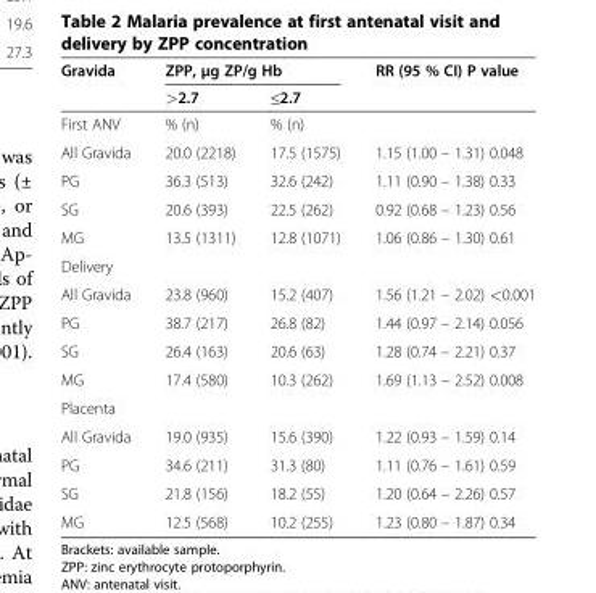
<table><thead><tr><td rowspan="2">Gravida</td><td colspan="2">ZPP, μg ZP/g Hb</td><td rowspan="2">RR (95 % CI) P value</td></tr><tr><td>&gt;2.7</td><td>≤2.7</td></tr></thead><tbody><tr><td>First ANV</td><td>% (n)</td><td>% (n)</td><td></td></tr><tr><td>All Gravida</td><td>20.0 (2218)</td><td>17.5 (1575)</td><td>1.15 (1.00 – 1.31) 0.048</td></tr><tr><td>PG</td><td>36.3 (513)</td><td>32.6 (242)</td><td>1.11 (0.90 – 1.38) 0.33</td></tr><tr><td>SG</td><td>20.6 (393)</td><td>22.5 (262)</td><td>0.92 (0.68 – 1.23) 0.56</td></tr><tr><td>MG</td><td>13.5 (1311)</td><td>12.8 (1071)</td><td>1.06 (0.86 – 1.30) 0.61</td></tr><tr><td colspan="4">Delivery</td></tr><tr><td>All Gravida</td><td>23.8 (960)</td><td>15.2 (407)</td><td>1.56 (1.21 – 2.02) &lt;0.001</td></tr><tr><td>PG</td><td>38.7 (217)</td><td>26.8 (82)</td><td>1.44 (0.97 – 2.14) 0.056</td></tr><tr><td>SG</td><td>26.4 (163)</td><td>20.6 (63)</td><td>1.28 (0.74 – 2.21) 0.37</td></tr><tr><td>MG</td><td>17.4 (580)</td><td>10.3 (262)</td><td>1.69 (1.13 – 2.52) 0.008</td></tr><tr><td colspan="4">Placenta</td></tr><tr><td>All Gravida</td><td>19.0 (935)</td><td>15.6 (390)</td><td>1.22 (0.93 – 1.59) 0.14</td></tr><tr><td>PG</td><td>34.6 (211)</td><td>31.3 (80)</td><td>1.11 (0.76 – 1.61) 0.59</td></tr><tr><td>SG</td><td>21.8 (156)</td><td>18.2 (55)</td><td>1.20 (0.64 – 2.26) 0.57</td></tr><tr><td>MG</td><td>12.5 (568)</td><td>10.2 (255)</td><td>1.23 (0.80 – 1.87) 0.34</td></tr></tbody></table>